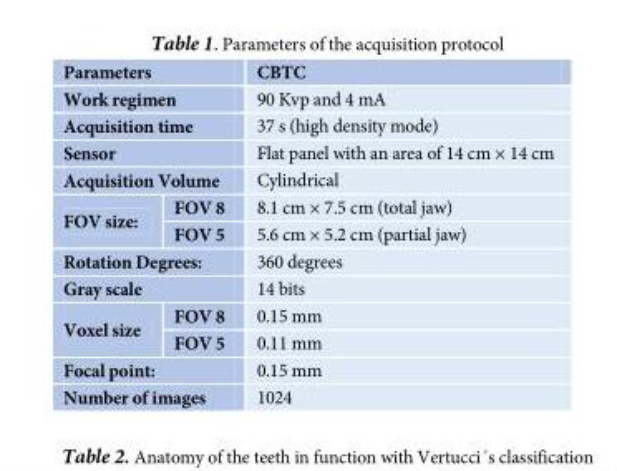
<table><thead><tr><td colspan="2">Parameters</td><td>CBTC</td></tr></thead><tbody><tr><td colspan="2">Work regimen</td><td>90 Kvp and 4 mA</td></tr><tr><td colspan="2">Acquisition time</td><td>37 s (high density mode)</td></tr><tr><td colspan="2">Sensor</td><td>Flat panel with an area of 14 cm × 14 cm</td></tr><tr><td colspan="2">Acquisition Volume</td><td>Cylindrical</td></tr><tr><td rowspan="2">FOV size:</td><td>FOV 8</td><td>8.1 cm × 7.5 cm (total jaw)</td></tr><tr><td>FOV 5</td><td>5.6 cm × 5.2 cm (partial jaw)</td></tr><tr><td colspan="2">Rotation Degrees:</td><td>360 degrees</td></tr><tr><td colspan="2">Gray scale</td><td>14 bits</td></tr><tr><td rowspan="2">Voxel size</td><td>FOV 8</td><td>0.15 mm</td></tr><tr><td>FOV 5</td><td>0.11 mm</td></tr><tr><td colspan="2">Focal point:</td><td>0.15 mm</td></tr><tr><td colspan="2">Number of images</td><td>1024</td></tr></tbody></table>